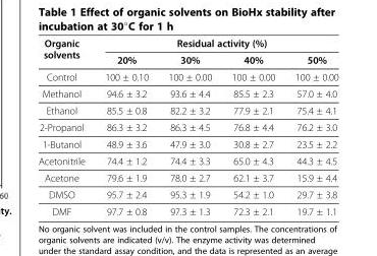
<table><thead><tr><td rowspan="2">Organic solvents</td><td colspan="4">Residual activity (%)</td></tr><tr><td>20%</td><td>30%</td><td>40%</td><td>50%</td></tr></thead><tbody><tr><td>Control</td><td>100 ± 0.10</td><td>100 ± 0.00</td><td>100 ± 0.00</td><td>100 ± 0.00</td></tr><tr><td>Methanol</td><td>94.6 ± 3.2</td><td>93.6 ± 4.4</td><td>85.5 ± 2.3</td><td>57.0 ± 4.0</td></tr><tr><td>Ethanol</td><td>85.5 ± 0.8</td><td>82.2 ± 3.2</td><td>77.9 ± 2.1</td><td>75.4 ± 4.1</td></tr><tr><td>2-Propanol</td><td>86.3 ± 3.2</td><td>86.3 ± 4.5</td><td>76.8 ± 4.4</td><td>76.2 ± 3.0</td></tr><tr><td>1-Butanol</td><td>48.9 ± 3.6</td><td>47.9 ± 3.0</td><td>30.8 ± 2.7</td><td>23.5 ± 2.2</td></tr><tr><td>Acetonitrile</td><td>74.4 ± 1.2</td><td>74.4 ± 3.3</td><td>65.0 ± 4.3</td><td>44.3 ± 4.5</td></tr><tr><td>Acetone</td><td>79.6 ± 1.9</td><td>78.0 ± 2.7</td><td>62.1 ± 3.7</td><td>15.9 ± 4.4</td></tr><tr><td>DMSO</td><td>95.7 ± 2.4</td><td>95.3 ± 1.9</td><td>54.2 ± 1.0</td><td>29.7 ± 3.8</td></tr><tr><td>DMF</td><td>97.7 ± 0.8</td><td>97.3 ± 1.3</td><td>72.3 ± 2.1</td><td>19.7 ± 1.1</td></tr></tbody></table>